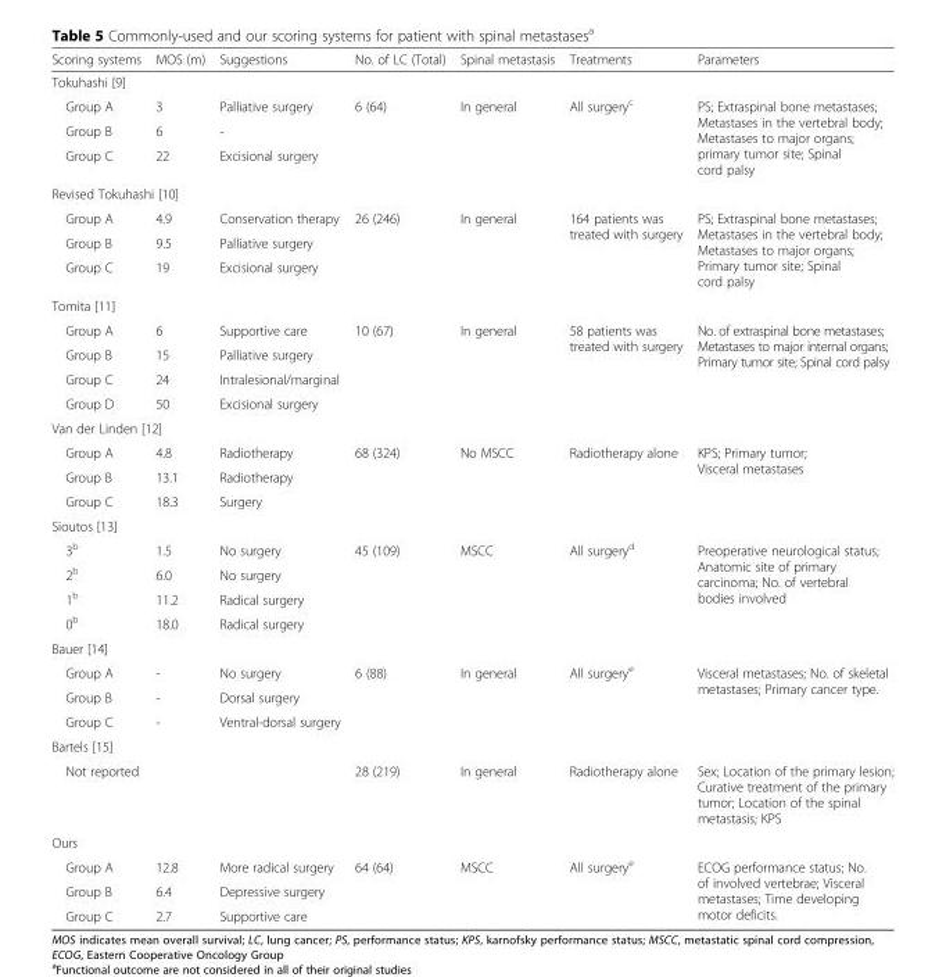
<table><thead><tr><td>Scoring systems</td><td>MOS (m)</td><td>Suggestions</td><td>No. of LC (Total)</td><td>Spinal metastasis</td><td>Treatments</td><td>Parameters</td></tr></thead><tbody><tr><td colspan="7">Tokuhashi [9]</td></tr><tr><td>Group A</td><td>3</td><td>Palliative surgery</td><td rowspan="3">6 (64)</td><td rowspan="3">In general</td><td rowspan="3">All surgery<sup>c</sup></td><td rowspan="3">PS; Extraspinal bone metastases; Metastases in the vertebral body; Metastases to major organs; primary tumor site; Spinal cord palsy</td></tr><tr><td>Group B</td><td>6</td><td>-</td></tr><tr><td>Group C</td><td>22</td><td>Excisional surgery</td></tr><tr><td colspan="7">Revised Tokuhashi [10]</td></tr><tr><td>Group A</td><td>4.9</td><td>Conservation therapy</td><td rowspan="3">26 (246)</td><td rowspan="3">In general</td><td rowspan="3">164 patients was treated with surgery</td><td rowspan="3">PS; Extraspinal bone metastases; Metastases in the vertebral body; Metastases to major organs; Primary tumor site; Spinal cord palsy</td></tr><tr><td>Group B</td><td>9.5</td><td>Palliative surgery</td></tr><tr><td>Group C</td><td>19</td><td>Excisional surgery</td></tr><tr><td colspan="7">Tomita [11]</td></tr><tr><td>Group A</td><td>6</td><td>Supportive care</td><td rowspan="4">10 (67)</td><td rowspan="4">In general</td><td rowspan="4">58 patients was treated with surgery</td><td rowspan="4">No. of extraspinal bone metastases; Metastases to major internal organs; Primary tumor site; Spinal cord palsy</td></tr><tr><td>Group B</td><td>15</td><td>Palliative surgery</td></tr><tr><td>Group C</td><td>24</td><td>Intralesional/marginal</td></tr><tr><td>Group D</td><td>50</td><td>Excisional surgery</td></tr><tr><td colspan="7">Van der Linden [12]</td></tr><tr><td>Group A</td><td>4.8</td><td>Radiotherapy</td><td rowspan="3">68 (324)</td><td rowspan="3">No MSCC</td><td rowspan="3">Radiotherapy alone</td><td rowspan="3">KPS; Primary tumor; Visceral metastases</td></tr><tr><td>Group B</td><td>13.1</td><td>Radiotherapy</td></tr><tr><td>Group C</td><td>18.3</td><td>Surgery</td></tr><tr><td colspan="7">Sioutos [13]</td></tr><tr><td>3<sup>b</sup></td><td>1.5</td><td>No surgery</td><td rowspan="4">45 (109)</td><td rowspan="4">MSCC</td><td rowspan="4">All surgery<sup>d</sup></td><td rowspan="4">Preoperative neurological status; Anatomic site of primary carcinoma; No. of vertebral bodies involved</td></tr><tr><td>2<sup>b</sup></td><td>6.0</td><td>No surgery</td></tr><tr><td>1<sup>b</sup></td><td>11.2</td><td>Radical surgery</td></tr><tr><td>0<sup>b</sup></td><td>18.0</td><td>Radical surgery</td></tr><tr><td colspan="7">Bauer [14]</td></tr><tr><td>Group A</td><td>-</td><td>No surgery</td><td rowspan="3">6 (88)</td><td rowspan="3">In general</td><td rowspan="3">All surgery<sup>e</sup></td><td rowspan="3">Visceral metastases; No. of skeletal metastases; Primary cancer type.</td></tr><tr><td>Group B</td><td>-</td><td>Dorsal surgery</td></tr><tr><td>Group C</td><td>-</td><td>Ventral-dorsal surgery</td></tr><tr><td colspan="7">Bartels [15]</td></tr><tr><td colspan="3">Not reported</td><td>28 (219)</td><td>In general</td><td>Radiotherapy alone</td><td>Sex; Location of the primary lesion; Curative treatment of the primary tumor; Location of the spinal metastasis; KPS</td></tr><tr><td colspan="7">Ours</td></tr><tr><td>Group A</td><td>12.8</td><td>More radical surgery</td><td rowspan="3">64 (64)</td><td rowspan="3">MSCC</td><td rowspan="3">All surgery<sup>e</sup></td><td rowspan="3">ECOG performance status; No. of involved vertebrae; Visceral metastases; Time developing motor deficits.</td></tr><tr><td>Group B</td><td>6.4</td><td>Depressive surgery</td></tr><tr><td>Group C</td><td>2.7</td><td>Supportive care</td></tr></tbody></table>